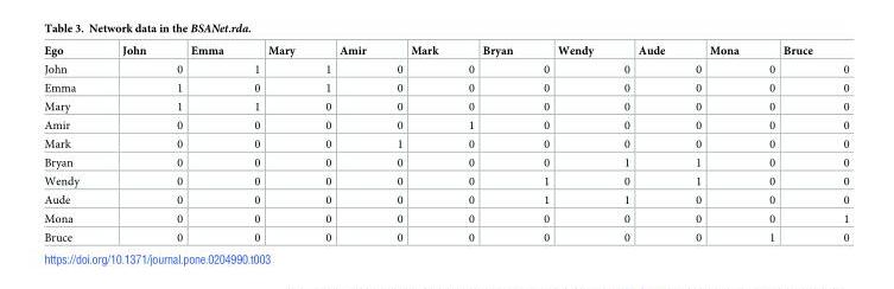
<table><thead><tr><td>Ego</td><td>John</td><td>Emma</td><td>Mary</td><td>Amir</td><td>Mark</td><td>Bryan</td><td>Wendy</td><td>Aude</td><td>Mona</td><td>Bruce</td></tr></thead><tbody><tr><td>John</td><td>0</td><td>1</td><td>1</td><td>0</td><td>0</td><td>0</td><td>0</td><td>0</td><td>0</td><td>0</td></tr><tr><td>Emma</td><td>1</td><td>0</td><td>1</td><td>0</td><td>0</td><td>0</td><td>0</td><td>0</td><td>0</td><td>0</td></tr><tr><td>Mary</td><td>1</td><td>1</td><td>0</td><td>0</td><td>0</td><td>0</td><td>0</td><td>0</td><td>0</td><td>0</td></tr><tr><td>Amir</td><td>0</td><td>0</td><td>0</td><td>0</td><td>1</td><td>0</td><td>0</td><td>0</td><td>0</td><td>0</td></tr><tr><td>Mark</td><td>0</td><td>0</td><td>0</td><td>1</td><td>0</td><td>0</td><td>0</td><td>0</td><td>0</td><td>0</td></tr><tr><td>Bryan</td><td>0</td><td>0</td><td>0</td><td>0</td><td>0</td><td>0</td><td>1</td><td>1</td><td>0</td><td>0</td></tr><tr><td>Wendy</td><td>0</td><td>0</td><td>0</td><td>0</td><td>0</td><td>1</td><td>0</td><td>1</td><td>0</td><td>0</td></tr><tr><td>Aude</td><td>0</td><td>0</td><td>0</td><td>0</td><td>0</td><td>1</td><td>1</td><td>0</td><td>0</td><td>0</td></tr><tr><td>Mona</td><td>0</td><td>0</td><td>0</td><td>0</td><td>0</td><td>0</td><td>0</td><td>0</td><td>0</td><td>1</td></tr><tr><td>Bruce</td><td>0</td><td>0</td><td>0</td><td>0</td><td>0</td><td>0</td><td>0</td><td>0</td><td>1</td><td>0</td></tr></tbody></table>